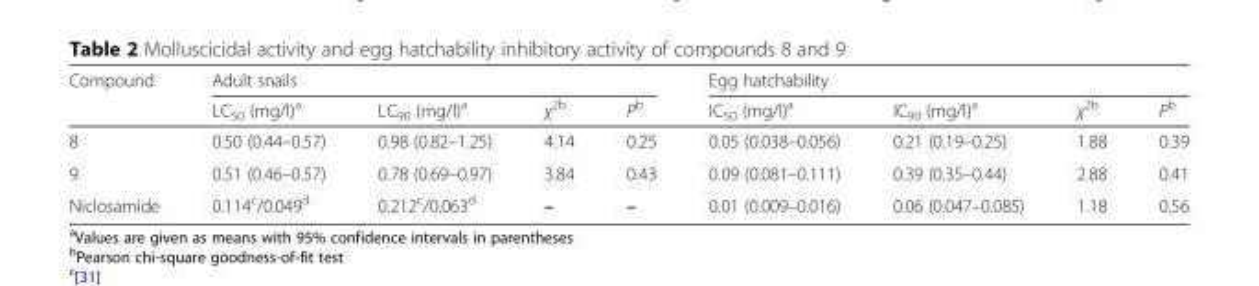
<table><thead><tr><td rowspan="2">Compound</td><td colspan="4">Adult snails</td><td colspan="4">Egg hatchability</td></tr><tr><td>LC<sub>50</sub> (mg/l)<sup>a</sup></td><td>LC<sub>90</sub> (mg/l)<sup>a</sup></td><td>χ<sup>2b</sup></td><td>P<sup>b</sup></td><td>IC<sub>50</sub> (mg/l)<sup>a</sup></td><td>IC<sub>90</sub> (mg/l)<sup>a</sup></td><td>χ<sup>2b</sup></td><td>P<sup>b</sup></td></tr></thead><tbody><tr><td>8</td><td>0.50 (0.44–0.57)</td><td>0.98 (0.82–1.25)</td><td>4.14</td><td>0.25</td><td>0.05 (0.038–0.056)</td><td>0.21 (0.19–0.25)</td><td>1.88</td><td>0.39</td></tr><tr><td>9</td><td>0.51 (0.46–0.57)</td><td>0.78 (0.69–0.97)</td><td>3.84</td><td>0.43</td><td>0.09 (0.081–0.111)</td><td>0.39 (0.35–0.44)</td><td>2.88</td><td>0.41</td></tr><tr><td>Niclosamide</td><td>0.114<sup>c</sup>/0.049<sup>d</sup></td><td>0.212<sup>c</sup>/0.063<sup>d</sup></td><td>–</td><td>–</td><td>0.01 (0.009–0.016)</td><td>0.06 (0.047–0.085)</td><td>1.18</td><td>0.56</td></tr></tbody></table>